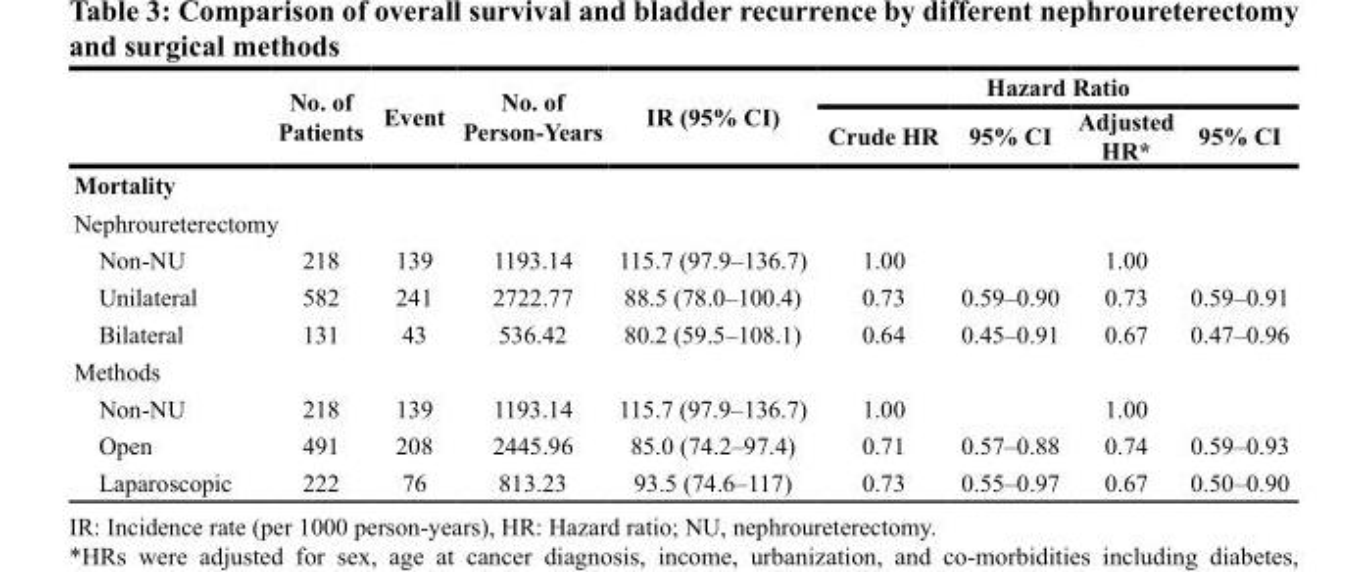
<table><thead><tr><td rowspan="2"></td><td rowspan="2">No. of Patients</td><td rowspan="2">Event</td><td rowspan="2">No. of Person-Years</td><td rowspan="2">IR (95% CI)</td><td colspan="4">Hazard Ratio</td></tr><tr><td>Crude HR</td><td>95% CI</td><td>Adjusted HR*</td><td>95% CI</td></tr></thead><tbody><tr><td colspan="9">Mortality</td></tr><tr><td colspan="9">Nephroureterectomy</td></tr><tr><td>Non-NU</td><td>218</td><td>139</td><td>1193.14</td><td>115.7 (97.9–136.7)</td><td>1.00</td><td></td><td>1.00</td><td></td></tr><tr><td>Unilateral</td><td>582</td><td>241</td><td>2722.77</td><td>88.5 (78.0–100.4)</td><td>0.73</td><td>0.59–0.90</td><td>0.73</td><td>0.59–0.91</td></tr><tr><td>Bilateral</td><td>131</td><td>43</td><td>536.42</td><td>80.2 (59.5–108.1)</td><td>0.64</td><td>0.45–0.91</td><td>0.67</td><td>0.47–0.96</td></tr><tr><td colspan="9">Methods</td></tr><tr><td>Non-NU</td><td>218</td><td>139</td><td>1193.14</td><td>115.7 (97.9–136.7)</td><td>1.00</td><td></td><td>1.00</td><td></td></tr><tr><td>Open</td><td>491</td><td>208</td><td>2445.96</td><td>85.0 (74.2–97.4)</td><td>0.71</td><td>0.57–0.88</td><td>0.74</td><td>0.59–0.93</td></tr><tr><td>Laparoscopic</td><td>222</td><td>76</td><td>813.23</td><td>93.5 (74.6–117)</td><td>0.73</td><td>0.55–0.97</td><td>0.67</td><td>0.50–0.90</td></tr></tbody></table>